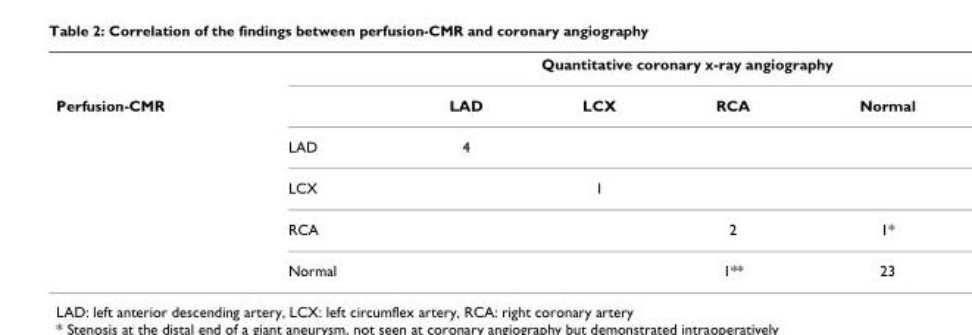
<table><thead><tr><td rowspan="2">Perfusion-CMR</td><td rowspan="2"></td><td colspan="4">Quantitative coronary x-ray angiography</td></tr><tr><td>LAD</td><td>LCX</td><td>RCA</td><td>Normal</td></tr></thead><tbody><tr><td></td><td>LAD</td><td>4</td><td></td><td></td><td></td></tr><tr><td></td><td>LCX</td><td></td><td>1</td><td></td><td></td></tr><tr><td></td><td>RCA</td><td></td><td></td><td>2</td><td>1*</td></tr><tr><td></td><td>Normal</td><td></td><td></td><td>1**</td><td>23</td></tr></tbody></table>